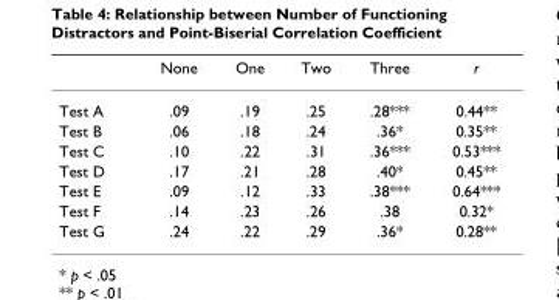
<table><thead><tr><td></td><td>None</td><td>One</td><td>Two</td><td>Three</td><td>r</td></tr></thead><tbody><tr><td>Test A</td><td>.09</td><td>.19</td><td>.25</td><td>.28***</td><td>0.44**</td></tr><tr><td>Test B</td><td>.06</td><td>.18</td><td>.24</td><td>.36*</td><td>0.35**</td></tr><tr><td>Test C</td><td>.10</td><td>.22</td><td>.31</td><td>.36***</td><td>0.53***</td></tr><tr><td>Test D</td><td>.17</td><td>.21</td><td>.28</td><td>.40*</td><td>0.45**</td></tr><tr><td>Test E</td><td>.09</td><td>.12</td><td>.33</td><td>.38***</td><td>0.64***</td></tr><tr><td>Test F</td><td>.14</td><td>.23</td><td>.26</td><td>.38</td><td>0.32*</td></tr><tr><td>Test G</td><td>.24</td><td>.22</td><td>.29</td><td>.36*</td><td>0.28**</td></tr></tbody></table>